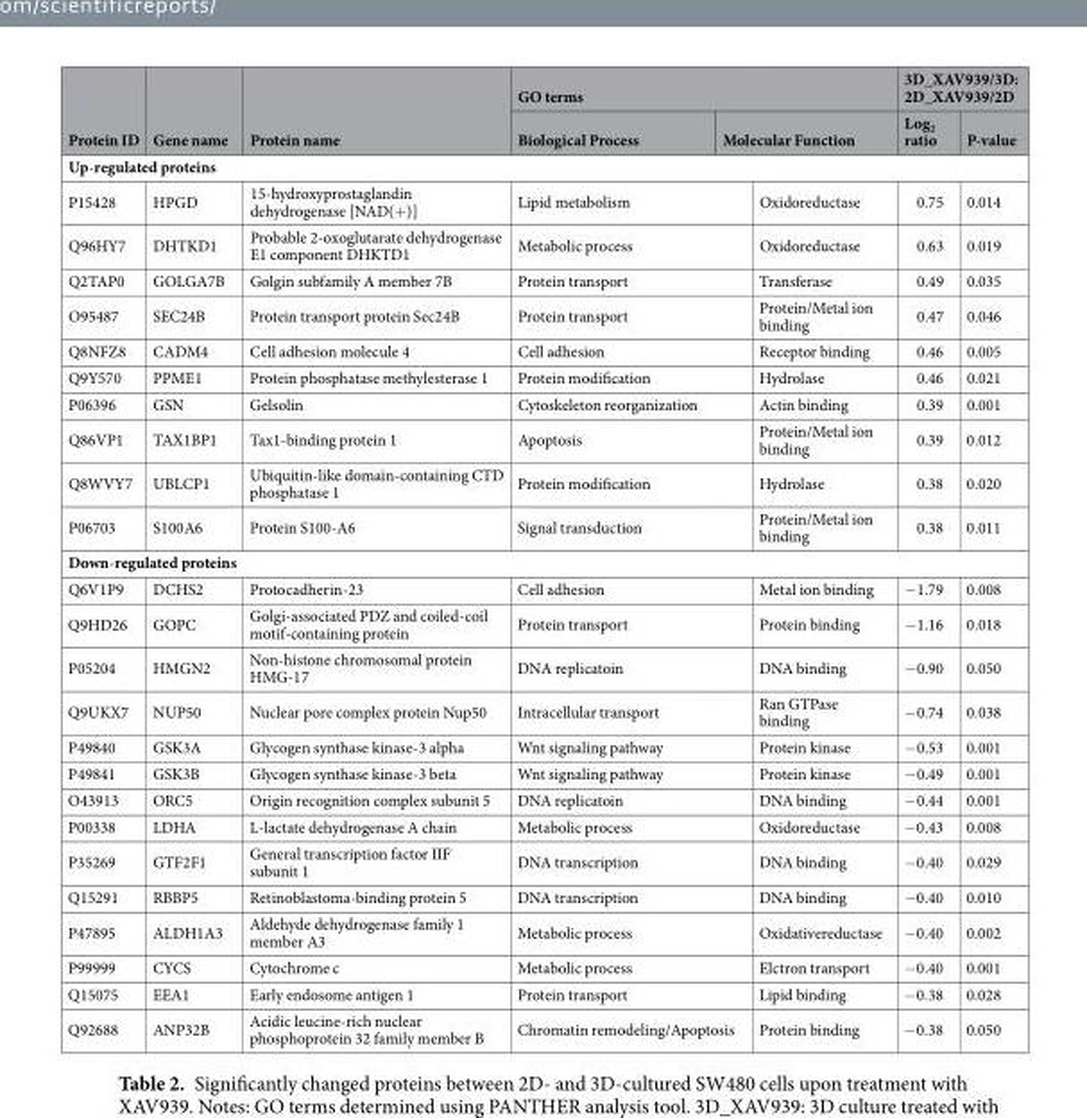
<table><thead><tr><td rowspan="2">Protein ID</td><td rowspan="2">Gene name</td><td rowspan="2">Protein name</td><td colspan="3">GO terms</td><td colspan="2">3D_XAV939/3D: 2D_XAV939/2D</td></tr><tr><td>Biological Process</td><td colspan="2">Molecular Function</td><td>Log<sub>2</sub> ratio</td><td>P-value</td></tr></thead><tbody><tr><td colspan="8">Up-regulated proteins</td></tr><tr><td>P15428</td><td>HPGD</td><td>15-hydroxyprostaglandin dehydrogenase [NAD(+)]</td><td colspan="2">Lipid metabolism</td><td>Oxidoreductase</td><td>0.75</td><td>0.014</td></tr><tr><td>Q96HY7</td><td>DHTKD1</td><td>Probable 2-oxoglutarate dehydrogenase E1 component DHKTD1</td><td colspan="2">Metabolic process</td><td>Oxidoreductase</td><td>0.63</td><td>0.019</td></tr><tr><td>Q2TAP0</td><td>GOLGA7B</td><td>Golgin subfamily A member 7B</td><td colspan="2">Protein transport</td><td>Transferase</td><td>0.49</td><td>0.035</td></tr><tr><td>O95487</td><td>SEC24B</td><td>Protein transport protein Sec24B</td><td colspan="2">Protein transport</td><td>Protein/Metal ion binding</td><td>0.47</td><td>0.046</td></tr><tr><td>Q8NFZ8</td><td>CADM4</td><td>Cell adhesion molecule 4</td><td colspan="2">Cell adhesion</td><td>Receptor binding</td><td>0.46</td><td>0.005</td></tr><tr><td>Q9Y570</td><td>PPME1</td><td>Protein phosphatase methylesterase 1</td><td colspan="2">Protein modification</td><td>Hydrolase</td><td>0.46</td><td>0.021</td></tr><tr><td>P06396</td><td>GSN</td><td>Gelsolin</td><td colspan="2">Cytoskeleton reorganization</td><td>Actin binding</td><td>0.39</td><td>0.001</td></tr><tr><td>Q86VP1</td><td>TAX1BP1</td><td>Tax1-binding protein 1</td><td colspan="2">Apoptosis</td><td>Protein/Metal ion binding</td><td>0.39</td><td>0.012</td></tr><tr><td>Q8WVY7</td><td>UBLCP1</td><td>Ubiquitin-like domain-containing CTD phosphatase 1</td><td colspan="2">Protein modification</td><td>Hydrolase</td><td>0.38</td><td>0.020</td></tr><tr><td>P06703</td><td>S100A6</td><td>Protein S100-A6</td><td colspan="2">Signal transduction</td><td>Protein/Metal ion binding</td><td>0.38</td><td>0.011</td></tr><tr><td colspan="8">Down-regulated proteins</td></tr><tr><td>Q6V1P9</td><td>DCHS2</td><td>Protocadherin-23</td><td colspan="2">Cell adhesion</td><td>Metal ion binding</td><td>−1.79</td><td>0.008</td></tr><tr><td>Q9HD26</td><td>GOPC</td><td>Golgi-associated PDZ and coiled-coil motif-containing protein</td><td colspan="2">Protein transport</td><td>Protein binding</td><td>−1.16</td><td>0.018</td></tr><tr><td>P05204</td><td>HMGN2</td><td>Non-histone chromosomal protein HMG-17</td><td colspan="2">DNA replicatoin</td><td>DNA binding</td><td>−0.90</td><td>0.050</td></tr><tr><td>Q9UKX7</td><td>NUP50</td><td>Nuclear pore complex protein Nup50</td><td colspan="2">Intracellular transport</td><td>Ran GTPase binding</td><td>−0.74</td><td>0.038</td></tr><tr><td>P49840</td><td>GSK3A</td><td>Glycogen synthase kinase-3 alpha</td><td colspan="2">Wnt signaling pathway</td><td>Protein kinase</td><td>−0.53</td><td>0.001</td></tr><tr><td>P49841</td><td>GSK3B</td><td>Glycogen synthase kinase-3 beta</td><td colspan="2">Wnt signaling pathway</td><td>Protein kinase</td><td>−0.49</td><td>0.001</td></tr><tr><td>O43913</td><td>ORC5</td><td>Origin recognition complex subunit 5</td><td colspan="2">DNA replicatoin</td><td>DNA binding</td><td>−0.44</td><td>0.001</td></tr><tr><td>P00338</td><td>LDHA</td><td>L-lactate dehydrogenase A chain</td><td colspan="2">Metabolic process</td><td>Oxidoreductase</td><td>−0.43</td><td>0.008</td></tr><tr><td>P35269</td><td>GTF2F1</td><td>General transcription factor IIF subunit 1</td><td colspan="2">DNA transcription</td><td>DNA binding</td><td>−0.40</td><td>0.029</td></tr><tr><td>Q15291</td><td>RBBP5</td><td>Retinoblastoma-binding protein 5</td><td colspan="2">DNA transcription</td><td>DNA binding</td><td>−0.40</td><td>0.010</td></tr><tr><td>P47895</td><td>ALDH1A3</td><td>Aldehyde dehydrogenase family 1 member A3</td><td colspan="2">Metabolic process</td><td>Oxidativereductase</td><td>−0.40</td><td>0.002</td></tr><tr><td>P99999</td><td>CYCS</td><td>Cytochrome c</td><td colspan="2">Metabolic process</td><td>Elctron transport</td><td>−0.40</td><td>0.001</td></tr><tr><td>Q15075</td><td>EEA1</td><td>Early endosome antigen 1</td><td colspan="2">Protein transport</td><td>Lipid binding</td><td>−0.38</td><td>0.028</td></tr><tr><td>Q92688</td><td>ANP32B</td><td>Acidic leucine-rich nuclear phosphoprotein 32 family member B</td><td colspan="2">Chromatin remodeling/Apoptosis</td><td>Protein binding</td><td>−0.38</td><td>0.050</td></tr></tbody></table>